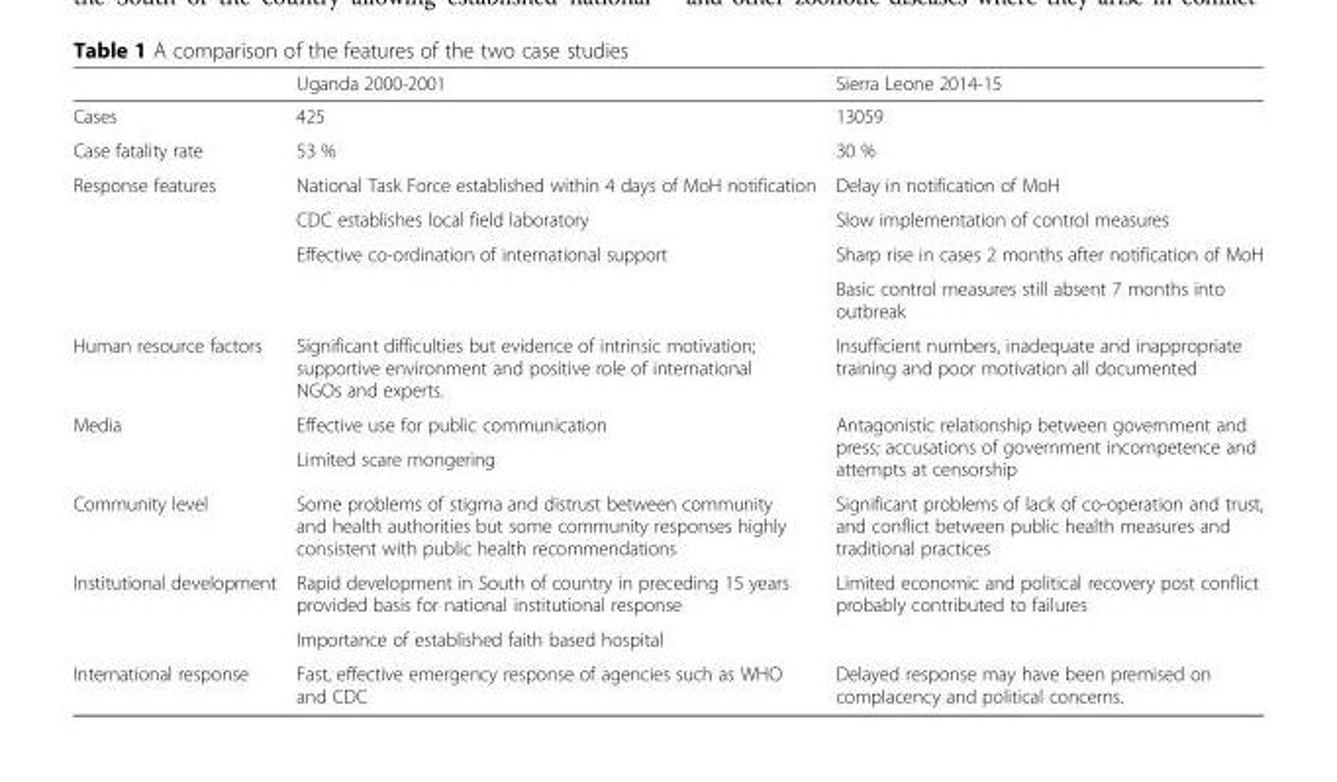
<table><thead><tr><td></td><td>Uganda 2000-2001</td><td>Sierra Leone 2014-15</td></tr></thead><tbody><tr><td>Cases</td><td>425</td><td>13059</td></tr><tr><td>Case fatality rate</td><td>53 %</td><td>30 %</td></tr><tr><td rowspan="4">Response features</td><td>National Task Force established within 4 days of MoH notification</td><td>Delay in notification of MoH</td></tr><tr><td>CDC establishes local field laboratory</td><td>Slow implementation of control measures</td></tr><tr><td rowspan="2">Effective co-ordination of international support</td><td>Sharp rise in cases 2 months after notification of MoH</td></tr><tr><td>Basic control measures still absent 7 months into outbreak</td></tr><tr><td>Human resource factors</td><td>Significant difficulties but evidence of intrinsic motivation; supportive environment and positive role of international NGOs and experts.</td><td>Insufficient numbers, inadequate and inappropriate training and poor motivation all documented</td></tr><tr><td rowspan="2">Media</td><td>Effective use for public communication</td><td rowspan="2">Antagonistic relationship between government and press; accusations of government incompetence and attempts at censorship</td></tr><tr><td>Limited scare mongering</td></tr><tr><td>Community level</td><td>Some problems of stigma and distrust between community and health authorities but some community responses highly consistent with public health recommendations</td><td>Significant problems of lack of co-operation and trust, and conflict between public health measures and traditional practices</td></tr><tr><td rowspan="2">Institutional development</td><td>Rapid development in South of country in preceding 15 years provided basis for national institutional response</td><td rowspan="2">Limited economic and political recovery post conflict probably contributed to failures</td></tr><tr><td>Importance of established faith based hospital</td></tr><tr><td>International response</td><td>Fast, effective emergency response of agencies such as WHO and CDC</td><td>Delayed response may have been premised on complacency and political concerns.</td></tr></tbody></table>